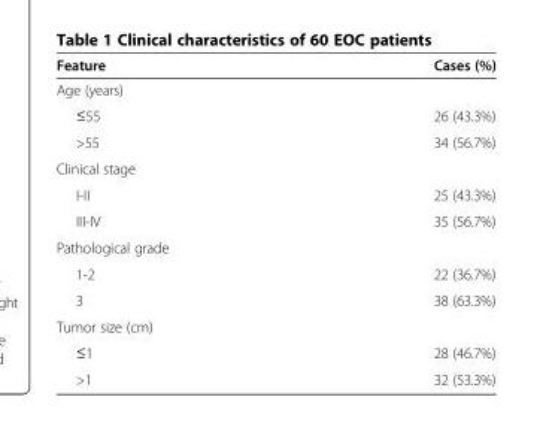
<table><thead><tr><td>Feature</td><td>Cases (%)</td></tr></thead><tbody><tr><td colspan="2">Age (years)</td></tr><tr><td>≤55</td><td>26 (43.3%)</td></tr><tr><td>&gt;55</td><td>34 (56.7%)</td></tr><tr><td colspan="2">Clinical stage</td></tr><tr><td>I-II</td><td>25 (43.3%)</td></tr><tr><td>III-IV</td><td>35 (56.7%)</td></tr><tr><td colspan="2">Pathological grade</td></tr><tr><td>1-2</td><td>22 (36.7%)</td></tr><tr><td>3</td><td>38 (63.3%)</td></tr><tr><td colspan="2">Tumor size (cm)</td></tr><tr><td>≤1</td><td>28 (46.7%)</td></tr><tr><td>&gt;1</td><td>32 (53.3%)</td></tr></tbody></table>